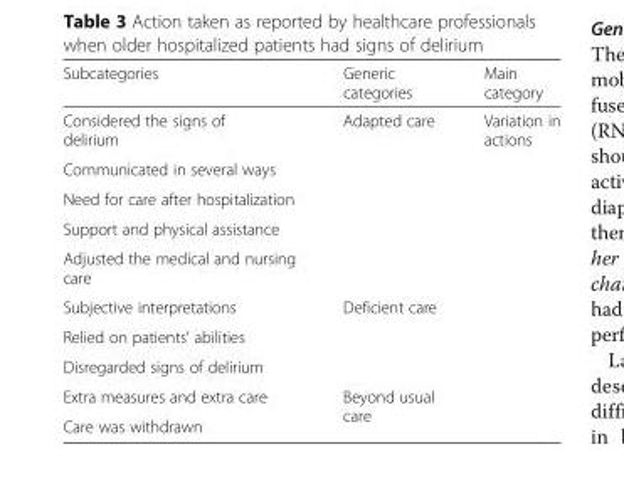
<table><thead><tr><td>Subcategories</td><td>Generic categories</td><td>Main category</td></tr></thead><tbody><tr><td>Considered the signs of delirium</td><td rowspan="5">Adapted care</td><td rowspan="10">Variation in actions</td></tr><tr><td>Communicated in several ways</td></tr><tr><td>Need for care after hospitalization</td></tr><tr><td>Support and physical assistance</td></tr><tr><td>Adjusted the medical and nursing care</td></tr><tr><td>Subjective interpretations</td><td rowspan="3">Deficient care</td></tr><tr><td>Relied on patients’ abilities</td></tr><tr><td>Disregarded signs of delirium</td></tr><tr><td>Extra measures and extra care</td><td rowspan="2">Beyond usual care</td></tr><tr><td>Care was withdrawn</td></tr></tbody></table>